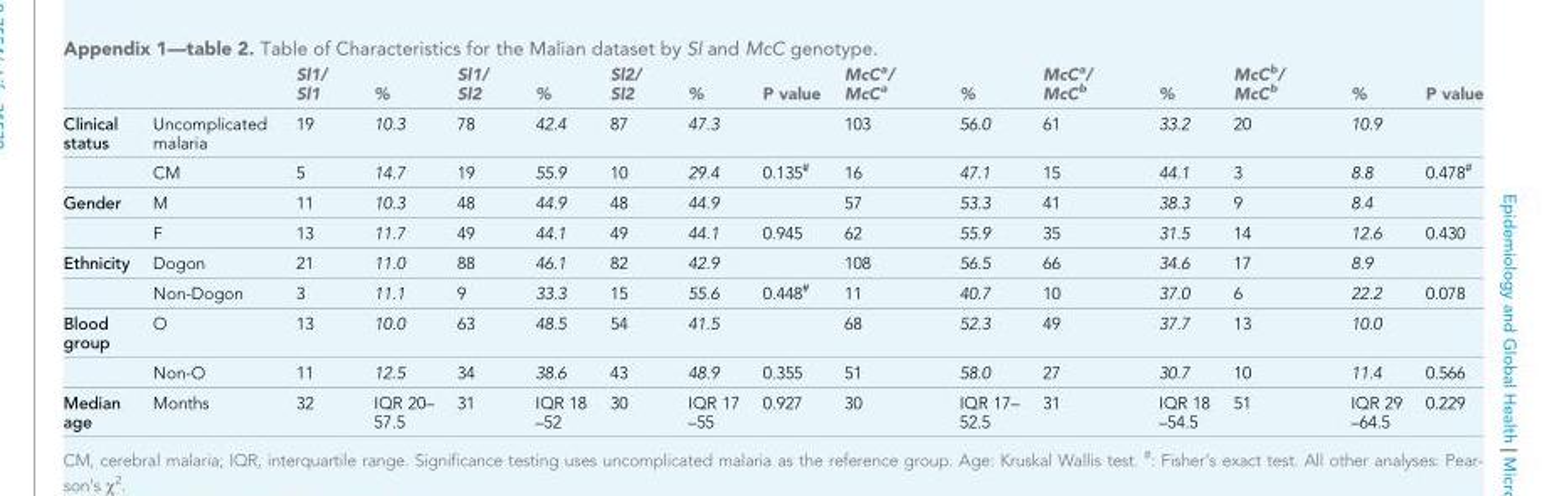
<table><thead><tr><td></td><td></td><td>Sl1/ Sl1</td><td>%</td><td>Sl1/ Sl2</td><td>%</td><td>Sl2/ Sl2</td><td>%</td><td>P value</td><td>McC<sup>a</sup>/ McC<sup>a</sup></td><td>%</td><td>McC<sup>a</sup>/ McC<sup>b</sup></td><td>%</td><td>McC<sup>b</sup>/ McC<sup>b</sup></td><td>%</td><td>P value</td></tr></thead><tbody><tr><td rowspan="2">Clinical status</td><td>Uncomplicated malaria</td><td>19</td><td>10.3</td><td>78</td><td>42.4</td><td>87</td><td>47.3</td><td></td><td>103</td><td>56.0</td><td>61</td><td>33.2</td><td>20</td><td>10.9</td><td></td></tr><tr><td>CM</td><td>5</td><td>14.7</td><td>19</td><td>55.9</td><td>10</td><td>29.4</td><td>0.135<sup>#</sup></td><td>16</td><td>47.1</td><td>15</td><td>44.1</td><td>3</td><td>8.8</td><td>0.478<sup>#</sup></td></tr><tr><td rowspan="2">Gender</td><td>M</td><td>11</td><td>10.3</td><td>48</td><td>44.9</td><td>48</td><td>44.9</td><td></td><td>57</td><td>53.3</td><td>41</td><td>38.3</td><td>9</td><td>8.4</td><td></td></tr><tr><td>F</td><td>13</td><td>11.7</td><td>49</td><td>44.1</td><td>49</td><td>44.1</td><td>0.945</td><td>62</td><td>55.9</td><td>35</td><td>31.5</td><td>14</td><td>12.6</td><td>0.430</td></tr><tr><td rowspan="2">Ethnicity</td><td>Dogon</td><td>21</td><td>11.0</td><td>88</td><td>46.1</td><td>82</td><td>42.9</td><td></td><td>108</td><td>56.5</td><td>66</td><td>34.6</td><td>17</td><td>8.9</td><td></td></tr><tr><td>Non-Dogon</td><td>3</td><td>11.1</td><td>9</td><td>33.3</td><td>15</td><td>55.6</td><td>0.448<sup>#</sup></td><td>11</td><td>40.7</td><td>10</td><td>37.0</td><td>6</td><td>22.2</td><td>0.078</td></tr><tr><td rowspan="2">Blood group</td><td>O</td><td>13</td><td>10.0</td><td>63</td><td>48.5</td><td>54</td><td>41.5</td><td></td><td>68</td><td>52.3</td><td>49</td><td>37.7</td><td>13</td><td>10.0</td><td></td></tr><tr><td>Non-O</td><td>11</td><td>12.5</td><td>34</td><td>38.6</td><td>43</td><td>48.9</td><td>0.355</td><td>51</td><td>58.0</td><td>27</td><td>30.7</td><td>10</td><td>11.4</td><td>0.566</td></tr><tr><td>Median age</td><td>Months</td><td>32</td><td>IQR 20– 57.5</td><td>31</td><td>IQR 18 –52</td><td>30</td><td>IQR 17 –55</td><td>0.927</td><td>30</td><td>IQR 17– 52.5</td><td>31</td><td>IQR 18 –54.5</td><td>51</td><td>IQR 29 –64.5</td><td>0.229</td></tr></tbody></table>